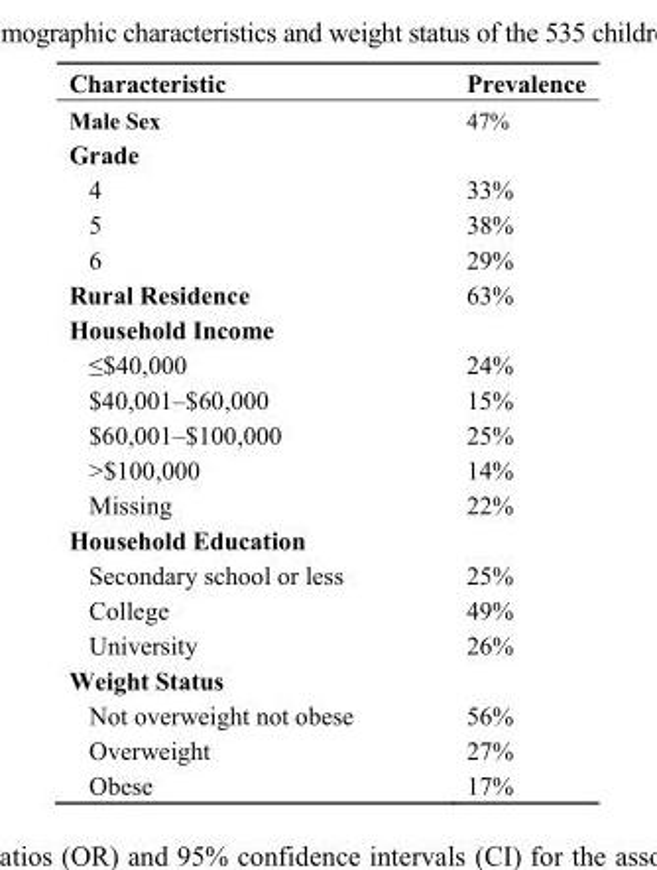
<table><thead><tr><td>Characteristic</td><td>Prevalence</td></tr></thead><tbody><tr><td>Male Sex</td><td>47%</td></tr><tr><td colspan="2">Grade</td></tr><tr><td>4</td><td>33%</td></tr><tr><td>5</td><td>38%</td></tr><tr><td>6</td><td>29%</td></tr><tr><td>Rural Residence</td><td>63%</td></tr><tr><td colspan="2">Household Income</td></tr><tr><td>≤$40,000</td><td>24%</td></tr><tr><td>$40,001–$60,000</td><td>15%</td></tr><tr><td>$60,001–$100,000</td><td>25%</td></tr><tr><td>&gt;$100,000</td><td>14%</td></tr><tr><td>Missing</td><td>22%</td></tr><tr><td colspan="2">Household Education</td></tr><tr><td>Secondary school or less</td><td>25%</td></tr><tr><td>College</td><td>49%</td></tr><tr><td>University</td><td>26%</td></tr><tr><td colspan="2">Weight Status</td></tr><tr><td>Not overweight not obese</td><td>56%</td></tr><tr><td>Overweight</td><td>27%</td></tr><tr><td>Obese</td><td>17%</td></tr></tbody></table>